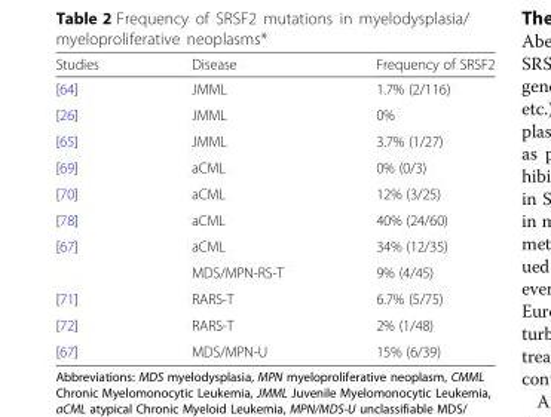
<table><thead><tr><td>Studies</td><td>Disease</td><td>Frequency of SRSF2</td></tr></thead><tbody><tr><td>[64]</td><td>JMML</td><td>1.7% (2/116)</td></tr><tr><td>[26]</td><td>JMML</td><td>0%</td></tr><tr><td>[65]</td><td>JMML</td><td>3.7% (1/27)</td></tr><tr><td>[69]</td><td>aCML</td><td>0% (0/3)</td></tr><tr><td>[70]</td><td>aCML</td><td>12% (3/25)</td></tr><tr><td>[78]</td><td>aCML</td><td>40% (24/60)</td></tr><tr><td rowspan="2">[67]</td><td>aCML</td><td>34% (12/35)</td></tr><tr><td>MDS/MPN-RS-T</td><td>9% (4/45)</td></tr><tr><td>[71]</td><td>RARS-T</td><td>6.7% (5/75)</td></tr><tr><td>[72]</td><td>RARS-T</td><td>2% (1/48)</td></tr><tr><td>[67]</td><td>MDS/MPN-U</td><td>15% (6/39)</td></tr></tbody></table>